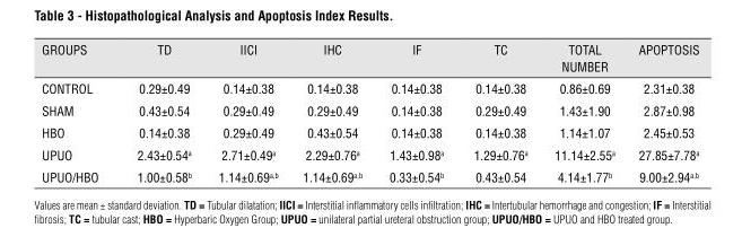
<table><thead><tr><td>GROUPS</td><td>TD</td><td>IICI</td><td>IHC</td><td>IF</td><td>TC</td><td>TOTAL NUMBER</td><td>APOPTOSIS</td></tr></thead><tbody><tr><td>CONTROL</td><td>0.29±0.49</td><td>0.14±0.38</td><td>0.14±0.38</td><td>0.14±0.38</td><td>0.14±0.38</td><td>0.86±0.69</td><td>2.31±0.38</td></tr><tr><td>SHAM</td><td>0.43±0.54</td><td>0.29±0.49</td><td>0.29±0.49</td><td>0.14±0.38</td><td>0.29±0.49</td><td>1.43±1.90</td><td>2.87±0.98</td></tr><tr><td>HBO</td><td>0.14±0.38</td><td>0.29±0.49</td><td>0.43±0.54</td><td>0.14±0.38</td><td>0.14±0.38</td><td>1.14±1.07</td><td>2.45±0.53</td></tr><tr><td>UPUO</td><td>2.43±0.54<sup>a</sup></td><td>2.71±0.49<sup>a</sup></td><td>2.29±0.76<sup>a</sup></td><td>1.43±0.98<sup>a</sup></td><td>1.29±0.76<sup>a</sup></td><td>11.14±2.55<sup>a</sup></td><td>27.85±7.78<sup>a</sup></td></tr><tr><td>UPUO/HBO</td><td>1.00±0.58<sup>b</sup></td><td>1.14±0.69<sup>a</sup>,<sup>b</sup></td><td>1.14±0.69<sup>a</sup>,<sup>b</sup></td><td>0.33±0.54<sup>b</sup></td><td>0.43±0.54</td><td>4.14±1.77<sup>b</sup></td><td>9.00±2.94<sup>a</sup>,<sup>b</sup></td></tr></tbody></table>